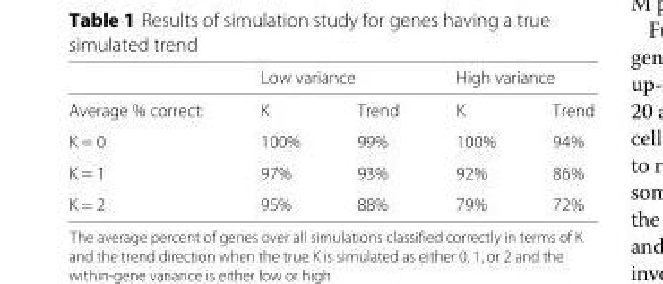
<table><thead><tr><td rowspan="2">Average % correct:</td><td colspan="2">Low variance</td><td colspan="2">High variance</td></tr><tr><td>K</td><td>Trend</td><td>K</td><td>Trend</td></tr></thead><tbody><tr><td>K = 0</td><td>100%</td><td>99%</td><td>100%</td><td>94%</td></tr><tr><td>K = 1</td><td>97%</td><td>93%</td><td>92%</td><td>86%</td></tr><tr><td>K = 2</td><td>95%</td><td>88%</td><td>79%</td><td>72%</td></tr></tbody></table>